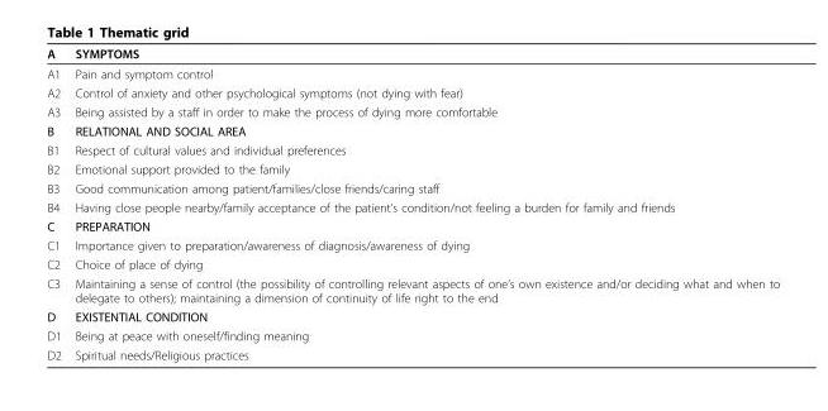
<table><tbody><tr><td>A</td><td>SYMPTOMS</td></tr><tr><td>A1</td><td>Pain and symptom control</td></tr><tr><td>A2</td><td>Control of anxiety and other psychological symptoms (not dying with fear)</td></tr><tr><td>A3</td><td>Being assisted by a staff in order to make the process of dying more comfortable</td></tr><tr><td>B</td><td>RELATIONAL AND SOCIAL AREA</td></tr><tr><td>B1</td><td>Respect of cultural values and individual preferences</td></tr><tr><td>B2</td><td>Emotional support provided to the family</td></tr><tr><td>B3</td><td>Good communication among patient/families/close friends/caring staff</td></tr><tr><td>B4</td><td>Having close people nearby/family acceptance of the patient’s condition/not feeling a burden for family and friends</td></tr><tr><td>C</td><td>PREPARATION</td></tr><tr><td>C1</td><td>Importance given to preparation/awareness of diagnosis/awareness of dying</td></tr><tr><td>C2</td><td>Choice of place of dying</td></tr><tr><td>C3</td><td>Maintaining a sense of control (the possibility of controlling relevant aspects of one’s own existence and/or deciding what and when to delegate to others); maintaining a dimension of continuity of life right to the end</td></tr><tr><td>D</td><td>EXISTENTIAL CONDITION</td></tr><tr><td>D1</td><td>Being at peace with oneself/finding meaning</td></tr><tr><td>D2</td><td>Spiritual needs/Religious practices</td></tr></tbody></table>